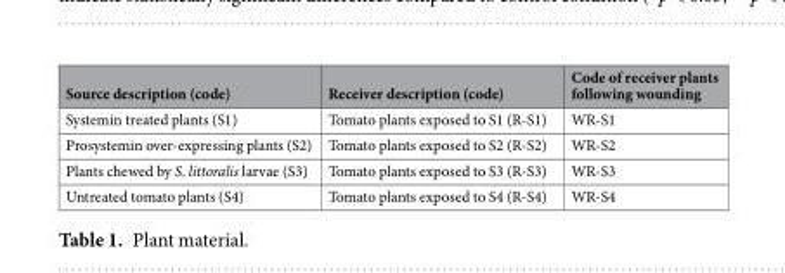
<table><thead><tr><td>Source description (code)</td><td>Receiver description (code)</td><td>Code of receiver plants following wounding</td></tr></thead><tbody><tr><td>Systemin treated plants (S1)</td><td>Tomato plants exposed to S1 (R-S1)</td><td>WR-S1</td></tr><tr><td>Prosystemin over-expressing plants (S2)</td><td>Tomato plants exposed to S2 (R-S2)</td><td>WR-S2</td></tr><tr><td>Plants chewed by S. littoralis larvae (S3)</td><td>Tomato plants exposed to S3 (R-S3)</td><td>WR-S3</td></tr><tr><td>Untreated tomato plants (S4)</td><td>Tomato plants exposed to S4 (R-S4)</td><td>WR-S4</td></tr></tbody></table>